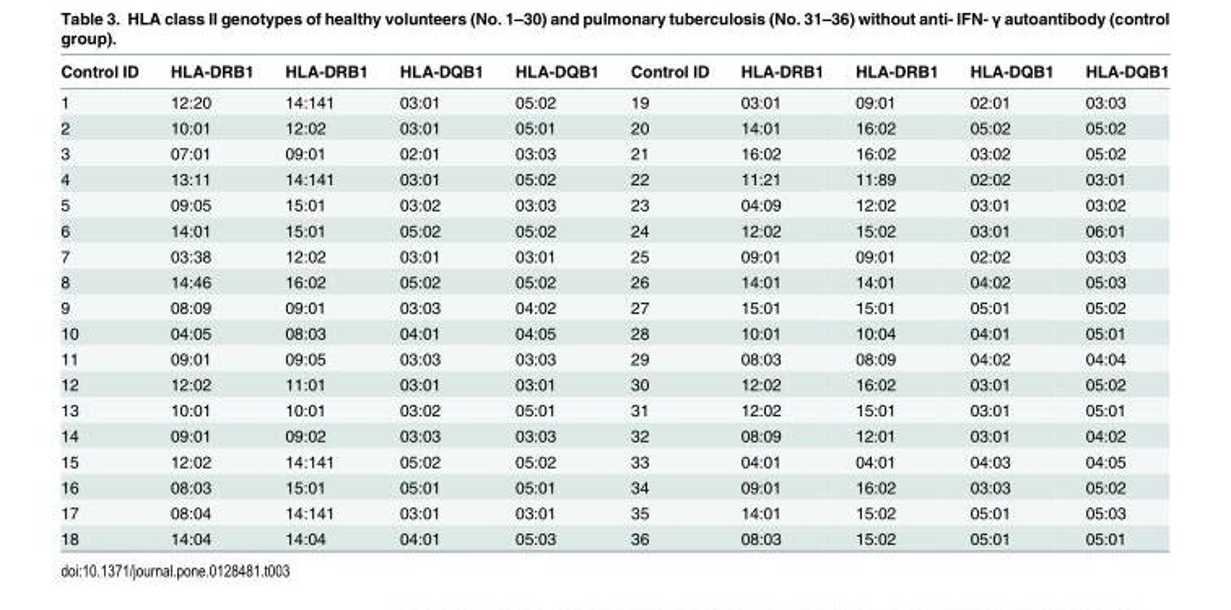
<table><thead><tr><td>Control ID</td><td>HLA-DRB1</td><td>HLA-DRB1</td><td>HLA-DQB1</td><td>HLA-DQB1</td><td>Control ID</td><td>HLA-DRB1</td><td>HLA-DRB1</td><td>HLA-DQB1</td><td>HLA-DQB1</td></tr></thead><tbody><tr><td>1</td><td>12:20</td><td>14:141</td><td>03:01</td><td>05:02</td><td>19</td><td>03:01</td><td>09:01</td><td>02:01</td><td>03:03</td></tr><tr><td>2</td><td>10:01</td><td>12:02</td><td>03:01</td><td>05:01</td><td>20</td><td>14:01</td><td>16:02</td><td>05:02</td><td>05:02</td></tr><tr><td>3</td><td>07:01</td><td>09:01</td><td>02:01</td><td>03:03</td><td>21</td><td>16:02</td><td>16:02</td><td>03:02</td><td>05:02</td></tr><tr><td>4</td><td>13:11</td><td>14:141</td><td>03:01</td><td>05:02</td><td>22</td><td>11:21</td><td>11:89</td><td>02:02</td><td>03:01</td></tr><tr><td>5</td><td>09:05</td><td>15:01</td><td>03:02</td><td>03:03</td><td>23</td><td>04:09</td><td>12:02</td><td>03:01</td><td>03:02</td></tr><tr><td>6</td><td>14:01</td><td>15:01</td><td>05:02</td><td>05:02</td><td>24</td><td>12:02</td><td>15:02</td><td>03:01</td><td>06:01</td></tr><tr><td>7</td><td>03:38</td><td>12:02</td><td>03:01</td><td>03:01</td><td>25</td><td>09:01</td><td>09:01</td><td>02:02</td><td>03:03</td></tr><tr><td>8</td><td>14:46</td><td>16:02</td><td>05:02</td><td>05:02</td><td>26</td><td>14:01</td><td>14:01</td><td>04:02</td><td>05:03</td></tr><tr><td>9</td><td>08:09</td><td>09:01</td><td>03:03</td><td>04:02</td><td>27</td><td>15:01</td><td>15:01</td><td>05:01</td><td>05:02</td></tr><tr><td>10</td><td>04:05</td><td>08:03</td><td>04:01</td><td>04:05</td><td>28</td><td>10:01</td><td>10:04</td><td>04:01</td><td>05:01</td></tr><tr><td>11</td><td>09:01</td><td>09:05</td><td>03:03</td><td>03:03</td><td>29</td><td>08:03</td><td>08:09</td><td>04:02</td><td>04:04</td></tr><tr><td>12</td><td>12:02</td><td>11:01</td><td>03:01</td><td>03:01</td><td>30</td><td>12:02</td><td>16:02</td><td>03:01</td><td>05:02</td></tr><tr><td>13</td><td>10:01</td><td>10:01</td><td>03:02</td><td>05:01</td><td>31</td><td>12:02</td><td>15:01</td><td>03:01</td><td>05:01</td></tr><tr><td>14</td><td>09:01</td><td>09:02</td><td>03:03</td><td>03:03</td><td>32</td><td>08:09</td><td>12:01</td><td>03:01</td><td>04:02</td></tr><tr><td>15</td><td>12:02</td><td>14:141</td><td>05:02</td><td>05:02</td><td>33</td><td>04:01</td><td>04:01</td><td>04:03</td><td>04:05</td></tr><tr><td>16</td><td>08:03</td><td>15:01</td><td>05:01</td><td>05:01</td><td>34</td><td>09:01</td><td>16:02</td><td>03:03</td><td>05:02</td></tr><tr><td>17</td><td>08:04</td><td>14:141</td><td>03:01</td><td>03:01</td><td>35</td><td>14:01</td><td>15:02</td><td>05:01</td><td>05:03</td></tr><tr><td>18</td><td>14:04</td><td>14:04</td><td>04:01</td><td>05:03</td><td>36</td><td>08:03</td><td>15:02</td><td>05:01</td><td>05:01</td></tr></tbody></table>